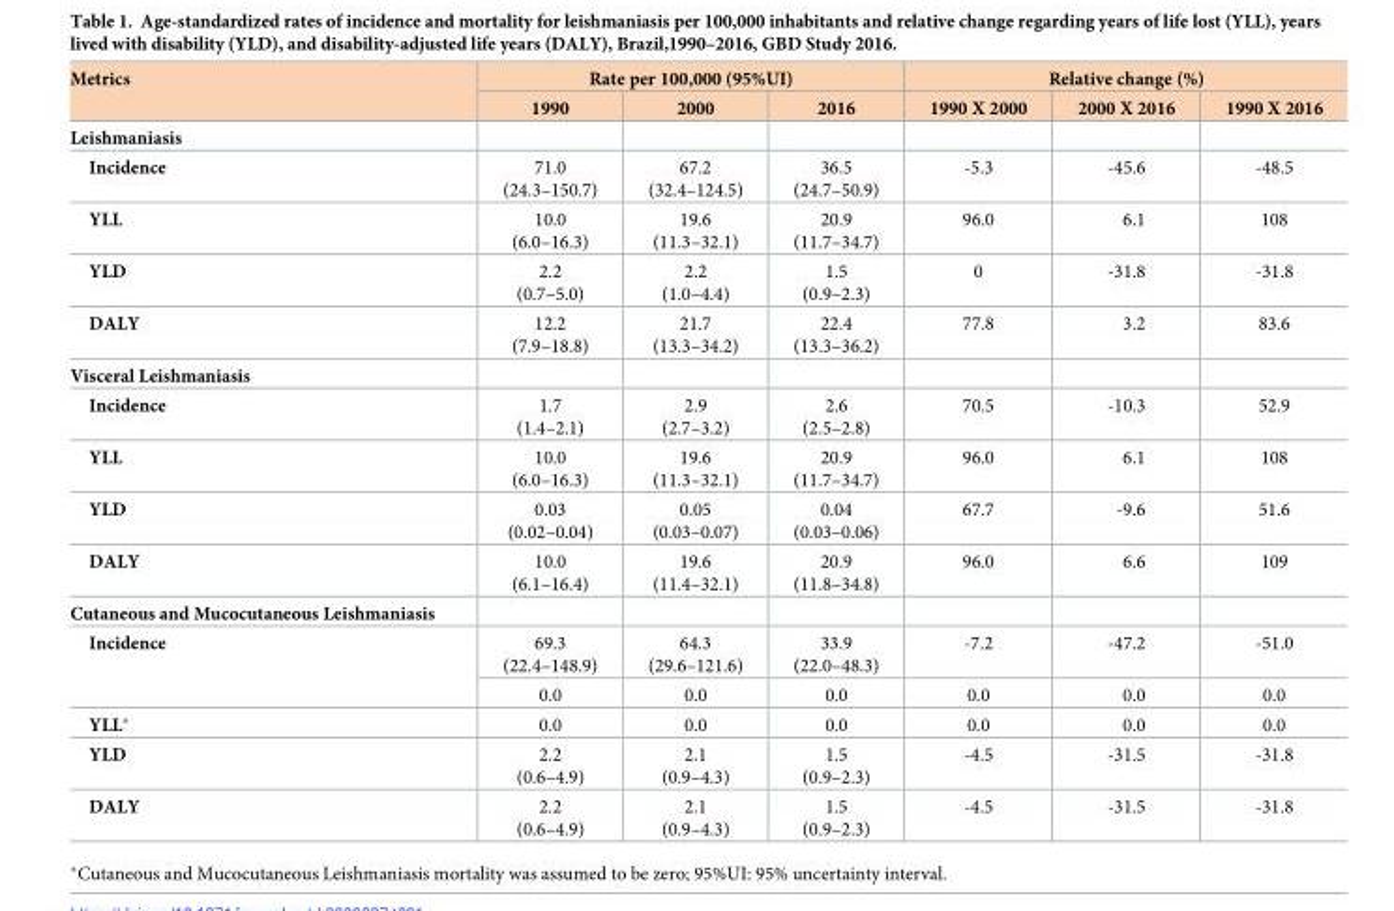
<table><thead><tr><td rowspan="2">Metrics</td><td colspan="3">Rate per 100,000 (95%UI)</td><td colspan="3">Relative change (%)</td></tr><tr><td>1990</td><td>2000</td><td>2016</td><td>1990 X 2000</td><td>2000 X 2016</td><td>1990 X 2016</td></tr></thead><tbody><tr><td colspan="7">Leishmaniasis</td></tr><tr><td>Incidence</td><td>71.0 (24.3–150.7)</td><td>67.2 (32.4–124.5)</td><td>36.5 (24.7–50.9)</td><td>-5.3</td><td>-45.6</td><td>-48.5</td></tr><tr><td>YLL</td><td>10.0 (6.0–16.3)</td><td>19.6 (11.3–32.1)</td><td>20.9 (11.7–34.7)</td><td>96.0</td><td>6.1</td><td>108</td></tr><tr><td>YLD</td><td>2.2 (0.7–5.0)</td><td>2.2 (1.0–4.4)</td><td>1.5 (0.9–2.3)</td><td>0</td><td>-31.8</td><td>-31.8</td></tr><tr><td>DALY</td><td>12.2 (7.9–18.8)</td><td>21.7 (13.3–34.2)</td><td>22.4 (13.3–36.2)</td><td>77.8</td><td>3.2</td><td>83.6</td></tr><tr><td colspan="7">Visceral Leishmaniasis</td></tr><tr><td>Incidence</td><td>1.7 (1.4–2.1)</td><td>2.9 (2.7–3.2)</td><td>2.6 (2.5–2.8)</td><td>70.5</td><td>-10.3</td><td>52.9</td></tr><tr><td>YLL</td><td>10.0 (6.0–16.3)</td><td>19.6 (11.3–32.1)</td><td>20.9 (11.7–34.7)</td><td>96.0</td><td>6.1</td><td>108</td></tr><tr><td>YLD</td><td>0.03 (0.02–0.04)</td><td>0.05 (0.03–0.07)</td><td>0.04 (0.03–0.06)</td><td>67.7</td><td>-9.6</td><td>51.6</td></tr><tr><td>DALY</td><td>10.0 (6.1–16.4)</td><td>19.6 (11.4–32.1)</td><td>20.9 (11.8–34.8)</td><td>96.0</td><td>6.6</td><td>109</td></tr><tr><td colspan="7">Cutaneous and Mucocutaneous Leishmaniasis</td></tr><tr><td rowspan="2">Incidence</td><td>69.3 (22.4–148.9)</td><td>64.3 (29.6–121.6)</td><td>33.9 (22.0–48.3)</td><td>-7.2</td><td>-47.2</td><td>-51.0</td></tr><tr><td>0.0</td><td>0.0</td><td>0.0</td><td>0.0</td><td>0.0</td><td>0.0</td></tr><tr><td>YLL*</td><td>0.0</td><td>0.0</td><td>0.0</td><td>0.0</td><td>0.0</td><td>0.0</td></tr><tr><td>YLD</td><td>2.2 (0.6–4.9)</td><td>2.1 (0.9–4.3)</td><td>1.5 (0.9–2.3)</td><td>-4.5</td><td>-31.5</td><td>-31.8</td></tr><tr><td>DALY</td><td>2.2 (0.6–4.9)</td><td>2.1 (0.9–4.3)</td><td>1.5 (0.9–2.3)</td><td>-4.5</td><td>-31.5</td><td>-31.8</td></tr></tbody></table>